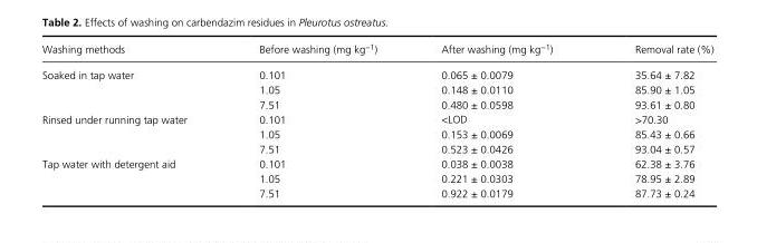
<table><thead><tr><td>Washing methods</td><td>Before washing (mg kg<sup>−1</sup>)</td><td>After washing (mg kg<sup>−1</sup>)</td><td>Removal rate (%)</td></tr></thead><tbody><tr><td rowspan="3">Soaked in tap water</td><td>0.101</td><td>0.065 ± 0.0079</td><td>35.64 ± 7.82</td></tr><tr><td>1.05</td><td>0.148 ± 0.0110</td><td>85.90 ± 1.05</td></tr><tr><td>7.51</td><td>0.480 ± 0.0598</td><td>93.61 ± 0.80</td></tr><tr><td rowspan="3">Rinsed under running tap water</td><td>0.101</td><td>&lt;LOD</td><td>&gt;70.30</td></tr><tr><td>1.05</td><td>0.153 ± 0.0069</td><td>85.43 ± 0.66</td></tr><tr><td>7.51</td><td>0.523 ± 0.0426</td><td>93.04 ± 0.57</td></tr><tr><td rowspan="3">Tap water with detergent aid</td><td>0.101</td><td>0.038 ± 0.0038</td><td>62.38 ± 3.76</td></tr><tr><td>1.05</td><td>0.221 ± 0.0303</td><td>78.95 ± 2.89</td></tr><tr><td>7.51</td><td>0.922 ± 0.0179</td><td>87.73 ± 0.24</td></tr></tbody></table>